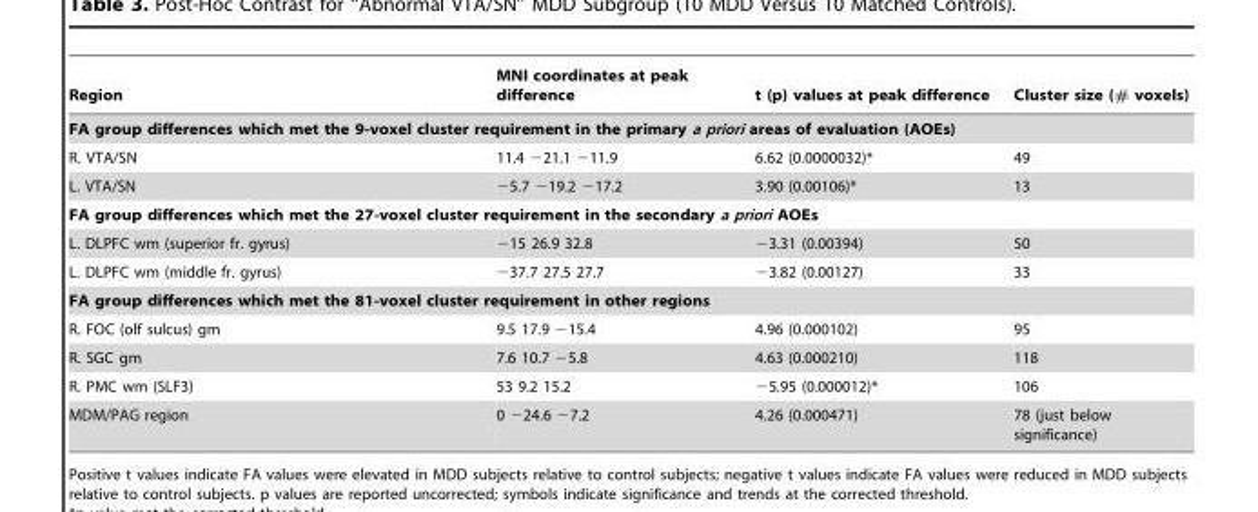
<table><thead><tr><td>Region</td><td>MNI coordinates at peak difference</td><td>t (p) values at peak difference</td><td>Cluster size (# voxels)</td></tr></thead><tbody><tr><td colspan="4">FA group differences which met the 9-voxel cluster requirement in the primary a priori areas of evaluation (AOEs)</td></tr><tr><td>R. VTA/SN</td><td>11.4 −21.1 −11.9</td><td>6.62 (0.0000032)*</td><td>49</td></tr><tr><td>L. VTA/SN</td><td>−5.7 −19.2 −17.2</td><td>3.90 (0.00106)*</td><td>13</td></tr><tr><td colspan="4">FA group differences which met the 27-voxel cluster requirement in the secondary a priori AOEs</td></tr><tr><td>L. DLPFC wm (superior fr. gyrus)</td><td>−15 26.9 32.8</td><td>−3.31 (0.00394)</td><td>50</td></tr><tr><td>L. DLPFC wm (middle fr. gyrus)</td><td>−37.7 27.5 27.7</td><td>−3.82 (0.00127)</td><td>33</td></tr><tr><td colspan="4">FA group differences which met the 81-voxel cluster requirement in other regions</td></tr><tr><td>R. FOC (olf sulcus) gm</td><td>9.5 17.9 −15.4</td><td>4.96 (0.000102)</td><td>95</td></tr><tr><td>R. SGC gm</td><td>7.6 10.7 −5.8</td><td>4.63 (0.000210)</td><td>118</td></tr><tr><td>R. PMC wm (SLF3)</td><td>53 9.2 15.2</td><td>−5.95 (0.000012)*</td><td>106</td></tr><tr><td>MDM/PAG region</td><td>0 −24.6 −7.2</td><td>4.26 (0.000471)</td><td>78 (just below significance)</td></tr></tbody></table>